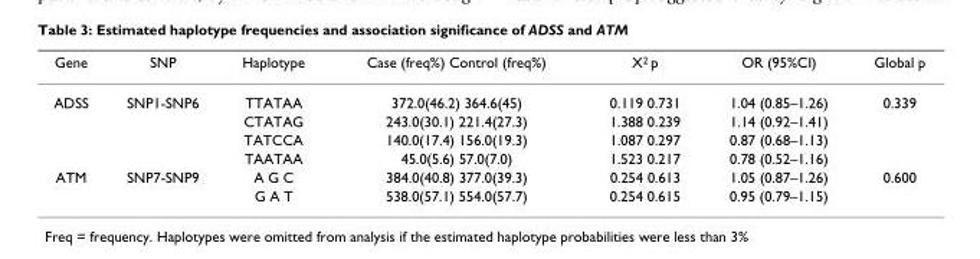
<table><thead><tr><td>Gene</td><td>SNP</td><td>Haplotype</td><td>Case (freq%) Control (freq%)</td><td>X<sup>2</sup> p</td><td>OR (95%CI)</td><td>Global p</td></tr></thead><tbody><tr><td rowspan="4">ADSS</td><td>SNP1-SNP6</td><td>TTATAA</td><td>372.0(46.2) 364.6(45)</td><td>0.119 0.731</td><td>1.04 (0.85–1.26)</td><td>0.339</td></tr><tr><td></td><td>CTATAG</td><td>243.0(30.1) 221.4(27.3)</td><td>1.388 0.239</td><td>1.14 (0.92–1.41)</td><td></td></tr><tr><td></td><td>TATCCA</td><td>140.0(17.4) 156.0(19.3)</td><td>1.087 0.297</td><td>0.87 (0.68–1.13)</td><td></td></tr><tr><td></td><td>TAATAA</td><td>45.0(5.6) 57.0(7.0)</td><td>1.523 0.217</td><td>0.78 (0.52–1.16)</td><td></td></tr><tr><td rowspan="2">ATM</td><td>SNP7-SNP9</td><td>A G C</td><td>384.0(40.8) 377.0(39.3)</td><td>0.254 0.613</td><td>1.05 (0.87–1.26)</td><td>0.600</td></tr><tr><td></td><td>G A T</td><td>538.0(57.1) 554.0(57.7)</td><td>0.254 0.615</td><td>0.95 (0.79–1.15)</td><td></td></tr></tbody></table>